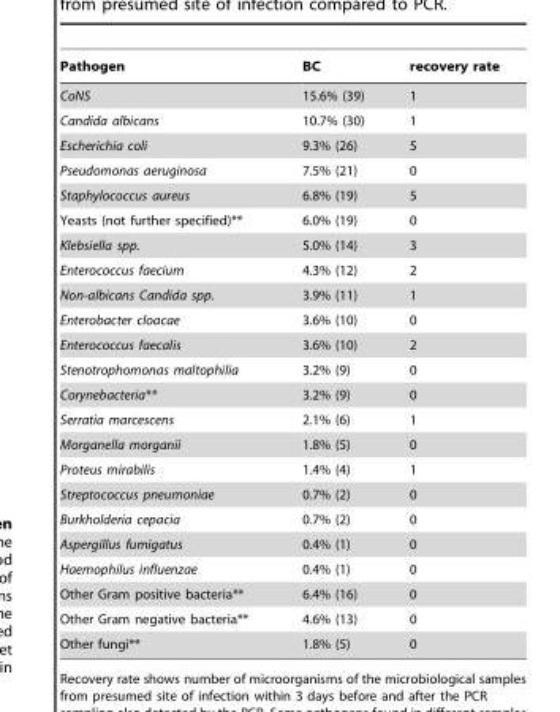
<table><thead><tr><td>Pathogen</td><td>BC</td><td>recovery rate</td></tr></thead><tbody><tr><td>CoNS</td><td>15.6% (39)</td><td>1</td></tr><tr><td>Candida albicans</td><td>10.7% (30)</td><td>1</td></tr><tr><td>Escherichia coli</td><td>9.3% (26)</td><td>5</td></tr><tr><td>Pseudomonas aeruginosa</td><td>7.5% (21)</td><td>0</td></tr><tr><td>Staphylococcus aureus</td><td>6.8% (19)</td><td>5</td></tr><tr><td>Yeasts (not further specified)**</td><td>6.0% (19)</td><td>0</td></tr><tr><td>Klebsiella spp.</td><td>5.0% (14)</td><td>3</td></tr><tr><td>Enterococcus faecium</td><td>4.3% (12)</td><td>2</td></tr><tr><td>Non-albicans Candida spp.</td><td>3.9% (11)</td><td>1</td></tr><tr><td>Enterobacter cloacae</td><td>3.6% (10)</td><td>0</td></tr><tr><td>Enterococcus faecalis</td><td>3.6% (10)</td><td>2</td></tr><tr><td>Stenotrophomonas maltophilia</td><td>3.2% (9)</td><td>0</td></tr><tr><td>Corynebacteria**</td><td>3.2% (9)</td><td>0</td></tr><tr><td>Serratia marcescens</td><td>2.1% (6)</td><td>1</td></tr><tr><td>Morganella morganii</td><td>1.8% (5)</td><td>0</td></tr><tr><td>Proteus mirabilis</td><td>1.4% (4)</td><td>1</td></tr><tr><td>Streptococcus pneumoniae</td><td>0.7% (2)</td><td>0</td></tr><tr><td>Burkholderia cepacia</td><td>0.7% (2)</td><td>0</td></tr><tr><td>Aspergillus fumigatus</td><td>0.4% (1)</td><td>0</td></tr><tr><td>Haemophilus influenzae</td><td>0.4% (1)</td><td>0</td></tr><tr><td>Other Gram positive bacteria**</td><td>6.4% (16)</td><td>0</td></tr><tr><td>Other Gram negative bacteria**</td><td>4.6% (13)</td><td>0</td></tr><tr><td>Other fungi**</td><td>1.8% (5)</td><td>0</td></tr></tbody></table>